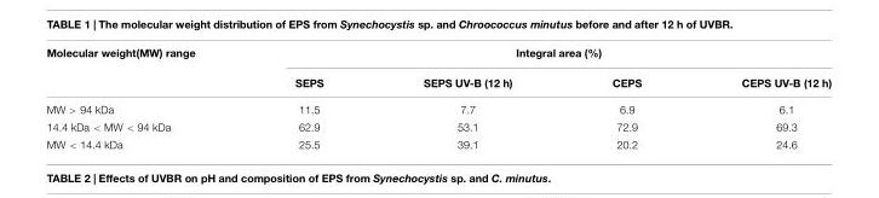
<table><thead><tr><td rowspan="2">Molecular weight(MW) range</td><td colspan="4">Integral area (%)</td></tr><tr><td>SEPS</td><td>SEPS UV-B (12 h)</td><td>CEPS</td><td>CEPS UV-B (12 h)</td></tr></thead><tbody><tr><td>MW &gt; 94 kDa</td><td>11.5</td><td>7.7</td><td>6.9</td><td>6.1</td></tr><tr><td>14.4 kDa &lt; MW &lt; 94 kDa</td><td>62.9</td><td>53.1</td><td>72.9</td><td>69.3</td></tr><tr><td>MW &lt; 14.4 kDa</td><td>25.5</td><td>39.1</td><td>20.2</td><td>24.6</td></tr></tbody></table>